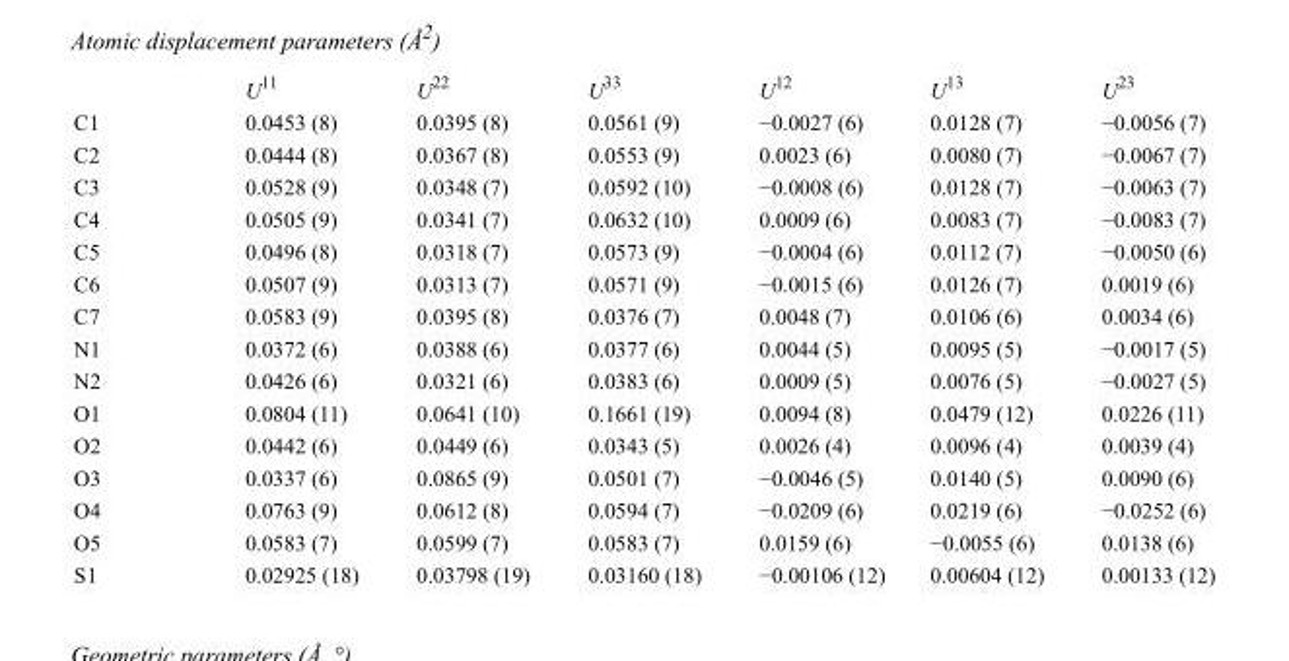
<table><thead><tr><td></td><td>U<sup>11</sup></td><td>U<sup>22</sup></td><td>U<sup>33</sup></td><td>U<sup>12</sup></td><td>U<sup>13</sup></td><td>U<sup>23</sup></td></tr></thead><tbody><tr><td>C1</td><td>0.0453 (8)</td><td>0.0395 (8)</td><td>0.0561 (9)</td><td>−0.0027 (6)</td><td>0.0128 (7)</td><td>−0.0056 (7)</td></tr><tr><td>C2</td><td>0.0444 (8)</td><td>0.0367 (8)</td><td>0.0553 (9)</td><td>0.0023 (6)</td><td>0.0080 (7)</td><td>−0.0067 (7)</td></tr><tr><td>C3</td><td>0.0528 (9)</td><td>0.0348 (7)</td><td>0.0592 (10)</td><td>−0.0008 (6)</td><td>0.0128 (7)</td><td>−0.0063 (7)</td></tr><tr><td>C4</td><td>0.0505 (9)</td><td>0.0341 (7)</td><td>0.0632 (10)</td><td>0.0009 (6)</td><td>0.0083 (7)</td><td>−0.0083 (7)</td></tr><tr><td>C5</td><td>0.0496 (8)</td><td>0.0318 (7)</td><td>0.0573 (9)</td><td>−0.0004 (6)</td><td>0.0112 (7)</td><td>−0.0050 (6)</td></tr><tr><td>C6</td><td>0.0507 (9)</td><td>0.0313 (7)</td><td>0.0571 (9)</td><td>−0.0015 (6)</td><td>0.0126 (7)</td><td>0.0019 (6)</td></tr><tr><td>C7</td><td>0.0583 (9)</td><td>0.0395 (8)</td><td>0.0376 (7)</td><td>0.0048 (7)</td><td>0.0106 (6)</td><td>0.0034 (6)</td></tr><tr><td>N1</td><td>0.0372 (6)</td><td>0.0388 (6)</td><td>0.0377 (6)</td><td>0.0044 (5)</td><td>0.0095 (5)</td><td>−0.0017 (5)</td></tr><tr><td>N2</td><td>0.0426 (6)</td><td>0.0321 (6)</td><td>0.0383 (6)</td><td>0.0009 (5)</td><td>0.0076 (5)</td><td>−0.0027 (5)</td></tr><tr><td>O1</td><td>0.0804 (11)</td><td>0.0641 (10)</td><td>0.1661 (19)</td><td>0.0094 (8)</td><td>0.0479 (12)</td><td>0.0226 (11)</td></tr><tr><td>O2</td><td>0.0442 (6)</td><td>0.0449 (6)</td><td>0.0343 (5)</td><td>0.0026 (4)</td><td>0.0096 (4)</td><td>0.0039 (4)</td></tr><tr><td>O3</td><td>0.0337 (6)</td><td>0.0865 (9)</td><td>0.0501 (7)</td><td>−0.0046 (5)</td><td>0.0140 (5)</td><td>0.0090 (6)</td></tr><tr><td>O4</td><td>0.0763 (9)</td><td>0.0612 (8)</td><td>0.0594 (7)</td><td>−0.0209 (6)</td><td>0.0219 (6)</td><td>−0.0252 (6)</td></tr><tr><td>O5</td><td>0.0583 (7)</td><td>0.0599 (7)</td><td>0.0583 (7)</td><td>0.0159 (6)</td><td>−0.0055 (6)</td><td>0.0138 (6)</td></tr><tr><td>S1</td><td>0.02925 (18)</td><td>0.03798 (19)</td><td>0.03160 (18)</td><td>−0.00106 (12)</td><td>0.00604 (12)</td><td>0.00133 (12)</td></tr></tbody></table>